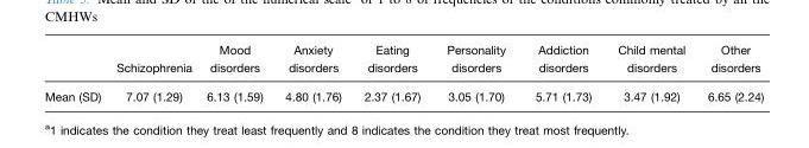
<table><thead><tr><td></td><td>Schizophrenia</td><td>Mood disorders</td><td>Anxiety disorders</td><td>Eating disorders</td><td>Personality disorders</td><td>Addiction disorders</td><td>Child mental disorders</td><td>Other disorders</td></tr></thead><tbody><tr><td>Mean (SD)</td><td>7.07 (1.29)</td><td>6.13 (1.59)</td><td>4.80 (1.76)</td><td>2.37 (1.67)</td><td>3.05 (1.70)</td><td>5.71 (1.73)</td><td>3.47 (1.92)</td><td>6.65 (2.24)</td></tr></tbody></table>